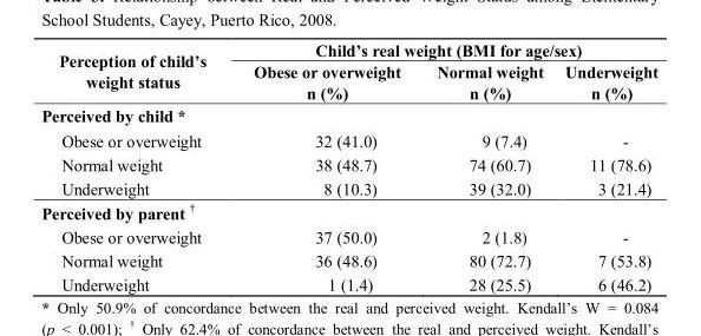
<table><thead><tr><td rowspan="2">Perception of child’s weight status</td><td colspan="3">Child’s real weight (BMI for age/sex)</td></tr><tr><td>Obese or overweight n (%)</td><td>Normal weight n (%)</td><td>Underweight n (%)</td></tr></thead><tbody><tr><td colspan="4">Perceived by child *</td></tr><tr><td>Obese or overweight</td><td>32 (41.0)</td><td>9 (7.4)</td><td>-</td></tr><tr><td>Normal weight</td><td>38 (48.7)</td><td>74 (60.7)</td><td>11 (78.6)</td></tr><tr><td>Underweight</td><td>8 (10.3)</td><td>39 (32.0)</td><td>3 (21.4)</td></tr><tr><td colspan="4">Perceived by parent <sup>†</sup></td></tr><tr><td>Obese or overweight</td><td>37 (50.0)</td><td>2 (1.8)</td><td>-</td></tr><tr><td>Normal weight</td><td>36 (48.6)</td><td>80 (72.7)</td><td>7 (53.8)</td></tr><tr><td>Underweight</td><td>1 (1.4)</td><td>28 (25.5)</td><td>6 (46.2)</td></tr></tbody></table>